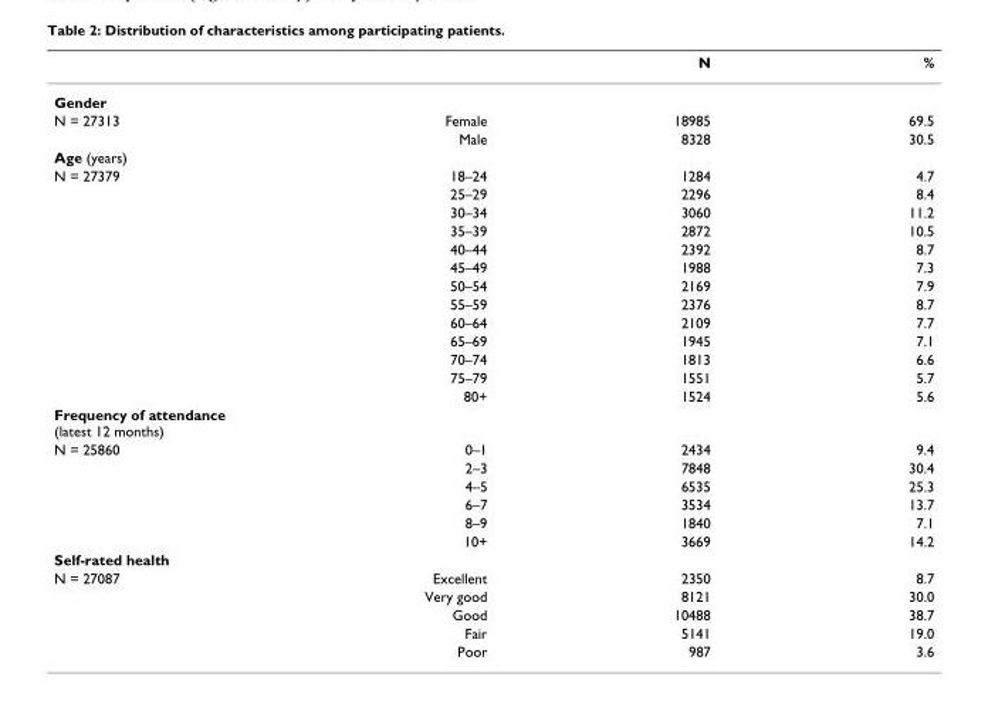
<table><thead><tr><td></td><td></td><td>N</td><td>%</td></tr></thead><tbody><tr><td colspan="4">Gender</td></tr><tr><td rowspan="2">N = 27313</td><td>Female</td><td>18985</td><td>69.5</td></tr><tr><td>Male</td><td>8328</td><td>30.5</td></tr><tr><td colspan="4">Age (years)</td></tr><tr><td rowspan="13">N = 27379</td><td>18–24</td><td>1284</td><td>4.7</td></tr><tr><td>25–29</td><td>2296</td><td>8.4</td></tr><tr><td>30–34</td><td>3060</td><td>11.2</td></tr><tr><td>35–39</td><td>2872</td><td>10.5</td></tr><tr><td>40–44</td><td>2392</td><td>8.7</td></tr><tr><td>45–49</td><td>1988</td><td>7.3</td></tr><tr><td>50–54</td><td>2169</td><td>7.9</td></tr><tr><td>55–59</td><td>2376</td><td>8.7</td></tr><tr><td>60–64</td><td>2109</td><td>7.7</td></tr><tr><td>65–69</td><td>1945</td><td>7.1</td></tr><tr><td>70–74</td><td>1813</td><td>6.6</td></tr><tr><td>75–79</td><td>1551</td><td>5.7</td></tr><tr><td>80+</td><td>1524</td><td>5.6</td></tr><tr><td colspan="4">Frequency of attendance (latest 12 months)</td></tr><tr><td rowspan="6">N = 25860</td><td>0–1</td><td>2434</td><td>9.4</td></tr><tr><td>2–3</td><td>7848</td><td>30.4</td></tr><tr><td>4–5</td><td>6535</td><td>25.3</td></tr><tr><td>6–7</td><td>3534</td><td>13.7</td></tr><tr><td>8–9</td><td>1840</td><td>7.1</td></tr><tr><td>10+</td><td>3669</td><td>14.2</td></tr><tr><td colspan="4">Self-rated health</td></tr><tr><td rowspan="5">N = 27087</td><td>Excellent</td><td>2350</td><td>8.7</td></tr><tr><td>Very good</td><td>8121</td><td>30.0</td></tr><tr><td>Good</td><td>10488</td><td>38.7</td></tr><tr><td>Fair</td><td>5141</td><td>19.0</td></tr><tr><td>Poor</td><td>987</td><td>3.6</td></tr></tbody></table>